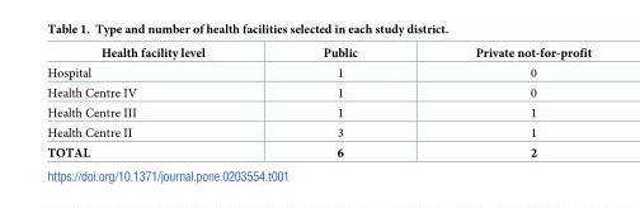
<table><thead><tr><td>Health facility level</td><td>Public</td><td>Private not-for-profit</td></tr></thead><tbody><tr><td>Hospital</td><td>1</td><td>0</td></tr><tr><td>Health Centre IV</td><td>1</td><td>0</td></tr><tr><td>Health Centre III</td><td>1</td><td>1</td></tr><tr><td>Health Centre II</td><td>3</td><td>1</td></tr><tr><td>TOTAL</td><td>6</td><td>2</td></tr></tbody></table>